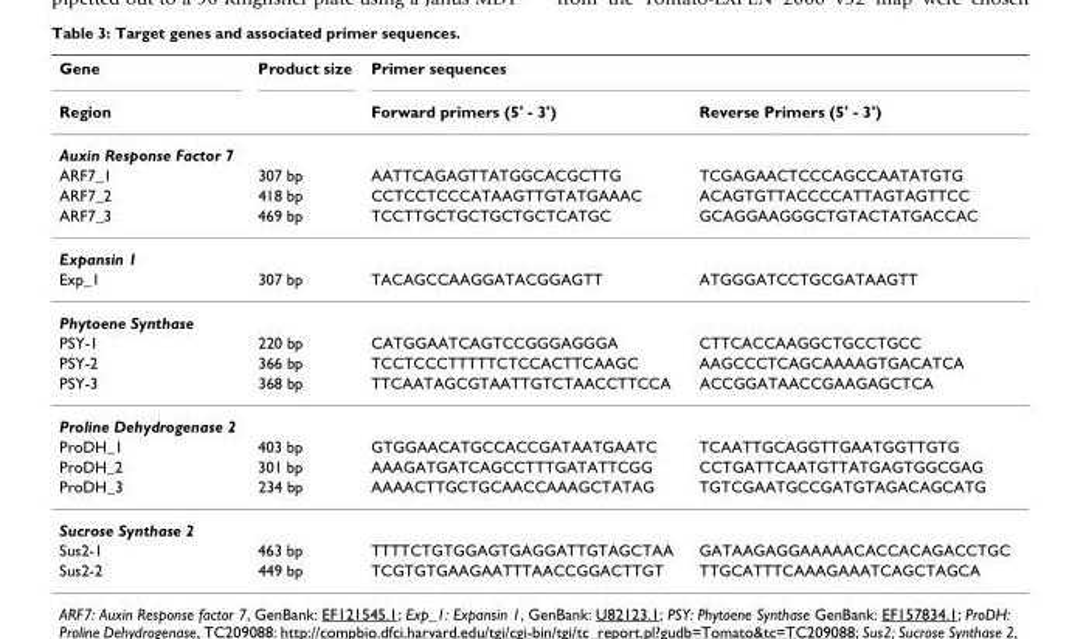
<table><thead><tr><td rowspan="2">Gene Region</td><td rowspan="2">Product size</td><td rowspan="2">Primer sequences Forward primers (5&#x27; - 3&#x27;)</td><td rowspan="2">Reverse Primers (5&#x27; - 3&#x27;)</td></tr><tr></tr></thead><tbody><tr><td colspan="4">Auxin Response Factor 7</td></tr><tr><td>ARF7_1</td><td>307 bp</td><td>AATTCAGAGTTATGGCACGCTTG</td><td>TCGAGAACTCCCAGCCAATATGTG</td></tr><tr><td>ARF7_2</td><td>418 bp</td><td>CCTCCTCCCATAAGTTGTATGAAAC</td><td>ACAGTGTTACCCCATTAGTAGTTCC</td></tr><tr><td>ARF7_3</td><td>469 bp</td><td>TCCTTGCTGCTGCTGCTCATGC</td><td>GCAGGAAGGGCTGTACTATGACCAC</td></tr><tr><td colspan="4">Expansin 1</td></tr><tr><td>Exp_1</td><td>307 bp</td><td>TACAGCCAAGGATACGGAGTT</td><td>ATGGGATCCTGCGATAAGTT</td></tr><tr><td colspan="4">Phytoene Synthase</td></tr><tr><td>PSY-1</td><td>220 bp</td><td>CATGGAATCAGTCCGGGAGGGA</td><td>CTTCACCAAGGCTGCCTGCC</td></tr><tr><td>PSY-2</td><td>366 bp</td><td>TCCTCCCTTTTTCTCCACTTCAAGC</td><td>AAGCCCTCAGCAAAAGTGACATCA</td></tr><tr><td>PSY-3</td><td>368 bp</td><td>TTCAATAGCGTAATTGTCTAACCTTCCA</td><td>ACCGGATAACCGAAGAGCTCA</td></tr><tr><td colspan="4">Proline Dehydrogenase 2</td></tr><tr><td>ProDH_1</td><td>403 bp</td><td>GTGGAACATGCCACCGATAATGAATC</td><td>TCAATTGCAGGTTGAATGGTTGTG</td></tr><tr><td>ProDH_2</td><td>301 bp</td><td>AAAGATGATCAGCCTTTGATATTCGG</td><td>CCTGATTCAATGTTATGAGTGGCGAG</td></tr><tr><td>ProDH_3</td><td>234 bp</td><td>AAAACTTGCTGCAACCAAAGCTATAG</td><td>TGTCGAATGCCGATGTAGACAGCATG</td></tr><tr><td colspan="4">Sucrose Synthase 2</td></tr><tr><td>Sus2-1</td><td>463 bp</td><td>TTTTCTGTGGAGTGAGGATTGTAGCTAA</td><td>GATAAGAGGAAAAACACCACAGACCTGC</td></tr><tr><td>Sus2-2</td><td>449 bp</td><td>TCGTGTGAAGAATTTAACCGGACTTGT</td><td>TTGCATTTCAAAGAAATCAGCTAGCA</td></tr></tbody></table>